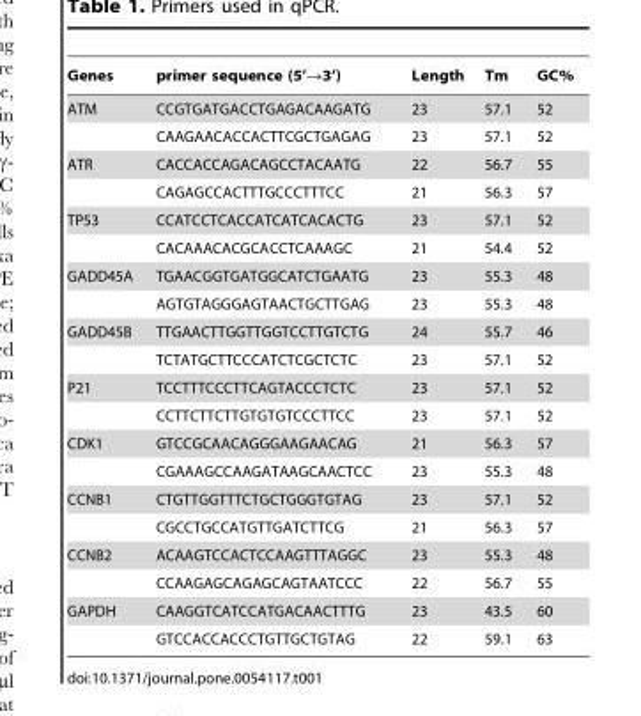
<table><thead><tr><td>Genes</td><td>primer sequence (5’→3’)</td><td>Length</td><td>Tm</td><td>GC%</td></tr></thead><tbody><tr><td rowspan="2">ATM</td><td>CCGTGATGACCTGAGACAAGATG</td><td>23</td><td>57.1</td><td>52</td></tr><tr><td>CAAGAACACCACTTCGCTGAGAG</td><td>23</td><td>57.1</td><td>52</td></tr><tr><td rowspan="2">ATR</td><td>CACCACCAGACAGCCTACAATG</td><td>22</td><td>56.7</td><td>55</td></tr><tr><td>CAGAGCCACTTTGCCCTTTCC</td><td>21</td><td>56.3</td><td>57</td></tr><tr><td rowspan="2">TP53</td><td>CCATCCTCACCATCATCACACTG</td><td>23</td><td>57.1</td><td>52</td></tr><tr><td>CACAAACACGCACCTCAAAGC</td><td>21</td><td>54.4</td><td>52</td></tr><tr><td rowspan="2">GADD45A</td><td>TGAACGGTGATGGCATCTGAATG</td><td>23</td><td>55.3</td><td>48</td></tr><tr><td>AGTGTAGGGAGTAACTGCTTGAG</td><td>23</td><td>55.3</td><td>48</td></tr><tr><td rowspan="2">GADD45B</td><td>TTGAACTTGGTTGGTCCTTGTCTG</td><td>24</td><td>55.7</td><td>46</td></tr><tr><td>TCTATGCTTCCCATCTCGCTCTC</td><td>23</td><td>57.1</td><td>52</td></tr><tr><td rowspan="2">P21</td><td>TCCTTTCCCTTCAGTACCCTCTC</td><td>23</td><td>57.1</td><td>52</td></tr><tr><td>CCTTCTTCTTGTGTGTCCCTTCC</td><td>23</td><td>57.1</td><td>52</td></tr><tr><td rowspan="2">CDK1</td><td>GTCCGCAACAGGGAAGAACAG</td><td>21</td><td>56.3</td><td>57</td></tr><tr><td>CGAAAGCCAAGATAAGCAACTCC</td><td>23</td><td>55.3</td><td>48</td></tr><tr><td rowspan="2">CCNB1</td><td>CTGTTGGTTTCTGCTGGGTGTAG</td><td>23</td><td>57.1</td><td>52</td></tr><tr><td>CGCCTGCCATGTTGATCTTCG</td><td>21</td><td>56.3</td><td>57</td></tr><tr><td rowspan="2">CCNB2</td><td>ACAAGTCCACTCCAAGTTTAGGC</td><td>23</td><td>55.3</td><td>48</td></tr><tr><td>CCAAGAGCAGAGCAGTAATCCC</td><td>22</td><td>56.7</td><td>55</td></tr><tr><td rowspan="2">GAPDH</td><td>CAAGGTCATCCATGACAACTTTG</td><td>23</td><td>43.5</td><td>60</td></tr><tr><td>GTCCACCACCCTGTTGCTGTAG</td><td>22</td><td>59.1</td><td>63</td></tr></tbody></table>